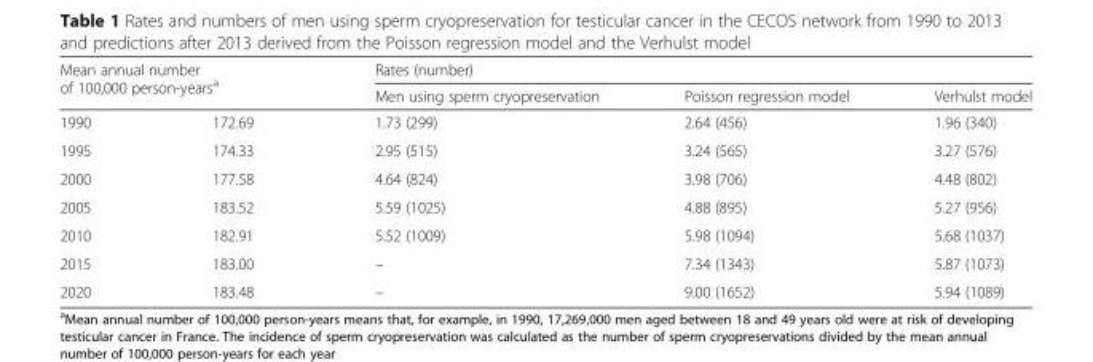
<table><thead><tr><td rowspan="2" colspan="2">Mean annual number of 100,000 person-years<sup>a</sup></td><td colspan="3">Rates (number)</td></tr><tr><td rowspan="2">Men using sperm cryopreservation 1.73 (299)</td><td rowspan="2">Poisson regression model 2.64 (456)</td><td rowspan="2">Verhulst model 1.96 (340)</td></tr><tr><td>1990</td><td>172.69</td></tr></thead><tbody><tr><td>1995</td><td>174.33</td><td>2.95 (515)</td><td>3.24 (565)</td><td>3.27 (576)</td></tr><tr><td>2000</td><td>177.58</td><td>4.64 (824)</td><td>3.98 (706)</td><td>4.48 (802)</td></tr><tr><td>2005</td><td>183.52</td><td>5.59 (1025)</td><td>4.88 (895)</td><td>5.27 (956)</td></tr><tr><td>2010</td><td>182.91</td><td>5.52 (1009)</td><td>5.98 (1094)</td><td>5.68 (1037)</td></tr><tr><td>2015</td><td>183.00</td><td>–</td><td>7.34 (1343)</td><td>5.87 (1073)</td></tr><tr><td>2020</td><td>183.48</td><td>–</td><td>9.00 (1652)</td><td>5.94 (1089)</td></tr></tbody></table>